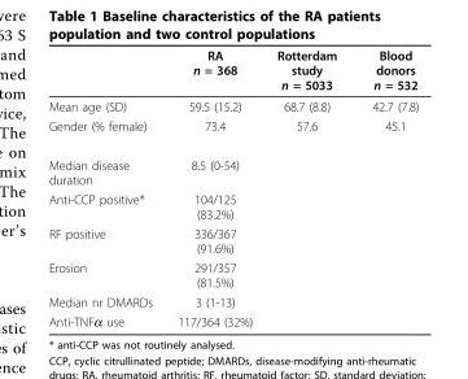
<table><thead><tr><td></td><td>RA n = 368</td><td>Rotterdam study n = 5033</td><td>Blood donors n = 532</td></tr></thead><tbody><tr><td>Mean age (SD)</td><td>59.5 (15.2)</td><td>68.7 (8.8)</td><td>42.7 (7.8)</td></tr><tr><td>Gender (% female)</td><td>73.4</td><td>57.6</td><td>45.1</td></tr><tr><td>Median disease duration</td><td>8.5 (0-54)</td><td></td><td></td></tr><tr><td>Anti-CCP positive*</td><td>104/125 (83.2%)</td><td></td><td></td></tr><tr><td>RF positive</td><td>336/367 (91.6%)</td><td></td><td></td></tr><tr><td>Erosion</td><td>291/357 (81.5%)</td><td></td><td></td></tr><tr><td>Median nr DMARDs</td><td>3 (1-13)</td><td></td><td></td></tr><tr><td>Anti-TNFα use</td><td>117/364 (32%)</td><td></td><td></td></tr></tbody></table>